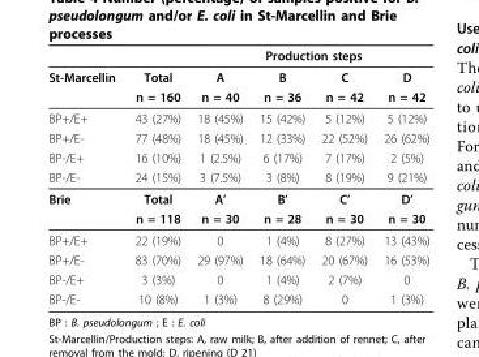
<table><thead><tr><td rowspan="2">St-Marcellin</td><td rowspan="2">Total</td><td colspan="4">Production steps</td></tr><tr><td>A</td><td>B</td><td>C</td><td>D</td></tr></thead><tbody><tr><td></td><td>n = 160</td><td>n = 40</td><td>n = 36</td><td>n = 42</td><td>n = 42</td></tr><tr><td>BP+/E+</td><td>43 (27%)</td><td>18 (45%)</td><td>15 (42%)</td><td>5 (12%)</td><td>5 (12%)</td></tr><tr><td>BP+/E-</td><td>77 (48%)</td><td>18 (45%)</td><td>12 (33%)</td><td>22 (52%)</td><td>26 (62%)</td></tr><tr><td>BP-/E+</td><td>16 (10%)</td><td>1 (2.5%)</td><td>6 (17%)</td><td>7 (17%)</td><td>2 (5%)</td></tr><tr><td>BP-/E-</td><td>24 (15%)</td><td>3 (7.5%)</td><td>3 (8%)</td><td>8 (19%)</td><td>9 (21%)</td></tr><tr><td rowspan="2">Brie</td><td>Total</td><td>A’</td><td>B’</td><td>C’</td><td>D’</td></tr><tr><td>n = 118</td><td>n = 30</td><td>n = 28</td><td>n = 30</td><td>n = 30</td></tr><tr><td>BP+/E+</td><td>22 (19%)</td><td>0</td><td>1 (4%)</td><td>8 (27%)</td><td>13 (43%)</td></tr><tr><td>BP+/E-</td><td>83 (70%)</td><td>29 (97%)</td><td>18 (64%)</td><td>20 (67%)</td><td>16 (53%)</td></tr><tr><td>BP-/E+</td><td>3 (3%)</td><td>0</td><td>1 (4%)</td><td>2 (7%)</td><td>0</td></tr><tr><td>BP-/E-</td><td>10 (8%)</td><td>1 (3%)</td><td>8 (29%)</td><td>0</td><td>1 (3%)</td></tr></tbody></table>